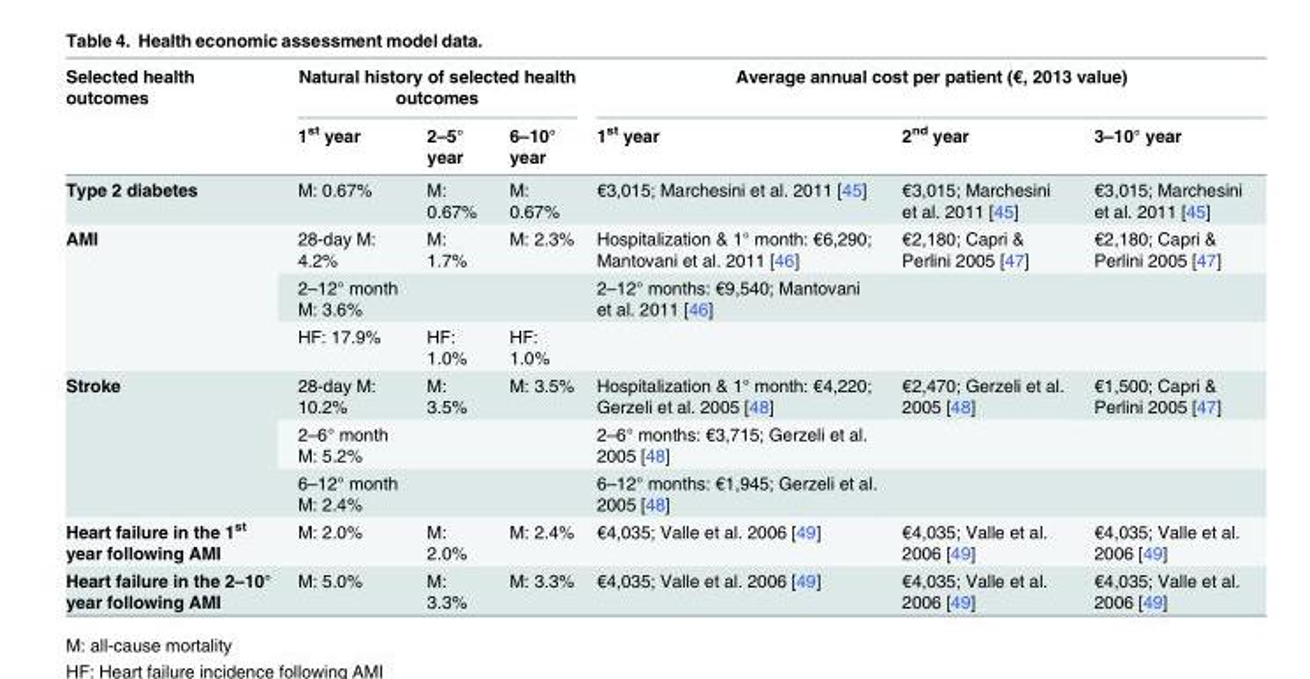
<table><thead><tr><td rowspan="2">Selected health outcomes</td><td colspan="3">Natural history of selected health outcomes</td><td colspan="3">Average annual cost per patient (€, 2013 value)</td></tr><tr><td>1<sup>st</sup> year</td><td>2–5° year</td><td>6–10° year</td><td>1<sup>st</sup> year</td><td>2<sup>nd</sup> year</td><td>3–10° year</td></tr></thead><tbody><tr><td>Type 2 diabetes</td><td>M: 0.67%</td><td>M: 0.67%</td><td>M: 0.67%</td><td>€3,015; Marchesini et al. 2011 [45]</td><td>€3,015; Marchesini et al. 2011 [45]</td><td>€3,015; Marchesini et al. 2011 [45]</td></tr><tr><td rowspan="3">AMI</td><td>28-day M: 4.2%</td><td>M: 1.7%</td><td>M: 2.3%</td><td>Hospitalization &amp; 1° month: €6,290; Mantovani et al. 2011 [46]</td><td>€2,180; Capri &amp; Perlini 2005 [47]</td><td>€2,180; Capri &amp; Perlini 2005 [47]</td></tr><tr><td>2–12° month M: 3.6%</td><td></td><td></td><td>2–12° months: €9,540; Mantovani et al. 2011 [46]</td><td></td><td></td></tr><tr><td>HF: 17.9%</td><td>HF: 1.0%</td><td>HF: 1.0%</td><td></td><td></td><td></td></tr><tr><td rowspan="3">Stroke</td><td>28-day M: 10.2%</td><td>M: 3.5%</td><td>M: 3.5%</td><td>Hospitalization &amp; 1° month: €4,220; Gerzeli et al. 2005 [48]</td><td>€2,470; Gerzeli et al. 2005 [48]</td><td>€1,500; Capri &amp; Perlini 2005 [47]</td></tr><tr><td>2–6° month M: 5.2%</td><td></td><td></td><td>2–6° months: €3,715; Gerzeli et al. 2005 [48]</td><td></td><td></td></tr><tr><td>6–12° month M: 2.4%</td><td></td><td></td><td>6–12° months: €1,945; Gerzeli et al. 2005 [48]</td><td></td><td></td></tr><tr><td>Heart failure in the 1<sup>st</sup> year following AMI</td><td>M: 2.0%</td><td>M: 2.0%</td><td>M: 2.4%</td><td>€4,035; Valle et al. 2006 [49]</td><td>€4,035; Valle et al. 2006 [49]</td><td>€4,035; Valle et al. 2006 [49]</td></tr><tr><td>Heart failure in the 2–10° year following AMI</td><td>M: 5.0%</td><td>M: 3.3%</td><td>M: 3.3%</td><td>€4,035; Valle et al. 2006 [49]</td><td>€4,035; Valle et al. 2006 [49]</td><td>€4,035; Valle et al. 2006 [49]</td></tr></tbody></table>